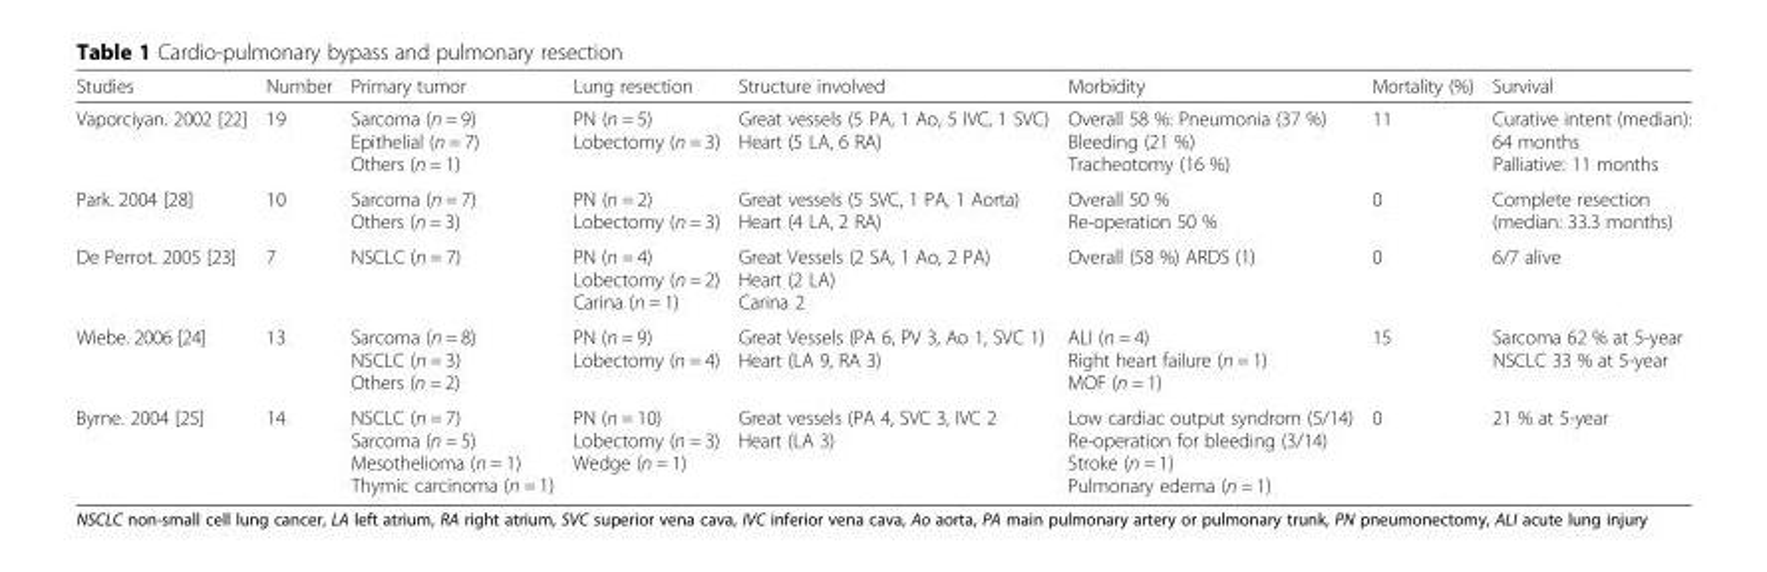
<table><thead><tr><td>Studies</td><td>Number</td><td>Primary tumor</td><td>Lung resection</td><td>Structure involved</td><td>Morbidity</td><td>Mortality (%)</td><td>Survival</td></tr></thead><tbody><tr><td>Vaporciyan. 2002 [22]</td><td>19</td><td>Sarcoma (n = 9) Epithelial (n = 7) Others (n = 1)</td><td>PN (n = 5) Lobectomy (n = 3)</td><td>Great vessels (5 PA, 1 Ao, 5 IVC, 1 SVC) Heart (5 LA, 6 RA)</td><td>Overall 58 %: Pneumonia (37 %) Bleeding (21 %) Tracheotomy (16 %)</td><td>11</td><td>Curative intent (median): 64 months Palliative: 11 months</td></tr><tr><td>Park. 2004 [28]</td><td>10</td><td>Sarcoma (n = 7) Others (n = 3)</td><td>PN (n = 2) Lobectomy (n = 3)</td><td>Great vessels (5 SVC, 1 PA, 1 Aorta) Heart (4 LA, 2 RA)</td><td>Overall 50 % Re-operation 50 %</td><td>0</td><td>Complete resection (median: 33.3 months)</td></tr><tr><td>De Perrot. 2005 [23]</td><td>7</td><td>NSCLC (n = 7)</td><td>PN (n = 4) Lobectomy (n = 2) Carina (n = 1)</td><td>Great Vessels (2 SA, 1 Ao, 2 PA) Heart (2 LA) Carina 2</td><td>Overall (58 %) ARDS (1)</td><td>0</td><td>6/7 alive</td></tr><tr><td>Wiebe. 2006 [24]</td><td>13</td><td>Sarcoma (n = 8) NSCLC (n = 3) Others (n = 2)</td><td>PN (n = 9) Lobectomy (n = 4)</td><td>Great Vessels (PA 6, PV 3, Ao 1, SVC 1) Heart (LA 9, RA 3)</td><td>ALI (n = 4) Right heart failure (n = 1) MOF (n = 1)</td><td>15</td><td>Sarcoma 62 % at 5-year NSCLC 33 % at 5-year</td></tr><tr><td>Byrne. 2004 [25]</td><td>14</td><td>NSCLC (n = 7) Sarcoma (n = 5) Mesothelioma (n = 1) Thymic carcinoma (n = 1)</td><td>PN (n = 10) Lobectomy (n = 3) Wedge (n = 1)</td><td>Great vessels (PA 4, SVC 3, IVC 2 Heart (LA 3)</td><td>Low cardiac output syndrom (5/14) Re-operation for bleeding (3/14) Stroke (n = 1) Pulmonary edema (n = 1)</td><td>0</td><td>21 % at 5-year</td></tr></tbody></table>